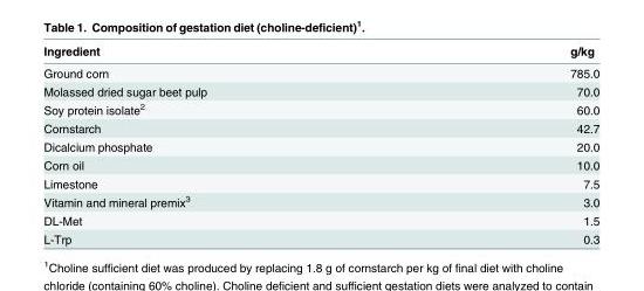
<table><thead><tr><td>Ingredient</td><td>g/kg</td></tr></thead><tbody><tr><td>Ground corn</td><td>785.0</td></tr><tr><td>Molassed dried sugar beet pulp</td><td>70.0</td></tr><tr><td>Soy protein isolate<sup>2</sup></td><td>60.0</td></tr><tr><td>Cornstarch</td><td>42.7</td></tr><tr><td>Dicalcium phosphate</td><td>20.0</td></tr><tr><td>Corn oil</td><td>10.0</td></tr><tr><td>Limestone</td><td>7.5</td></tr><tr><td>Vitamin and mineral premix<sup>3</sup></td><td>3.0</td></tr><tr><td>DL-Met</td><td>1.5</td></tr><tr><td>L-Trp</td><td>0.3</td></tr></tbody></table>